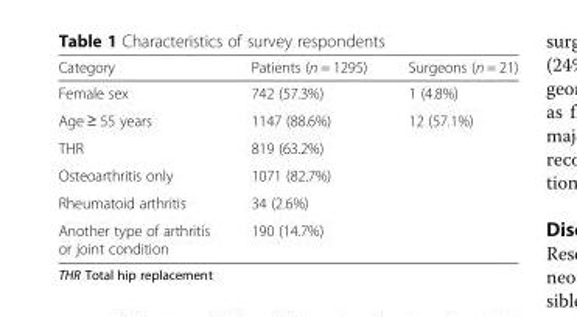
<table><thead><tr><td>Category</td><td>Patients (n = 1295)</td><td>Surgeons (n = 21)</td></tr></thead><tbody><tr><td>Female sex</td><td>742 (57.3%)</td><td>1 (4.8%)</td></tr><tr><td>Age ≥ 55 years</td><td>1147 (88.6%)</td><td>12 (57.1%)</td></tr><tr><td>THR</td><td>819 (63.2%)</td><td></td></tr><tr><td>Osteoarthritis only</td><td>1071 (82.7%)</td><td></td></tr><tr><td>Rheumatoid arthritis</td><td>34 (2.6%)</td><td></td></tr><tr><td>Another type of arthritis or joint condition</td><td>190 (14.7%)</td><td></td></tr></tbody></table>